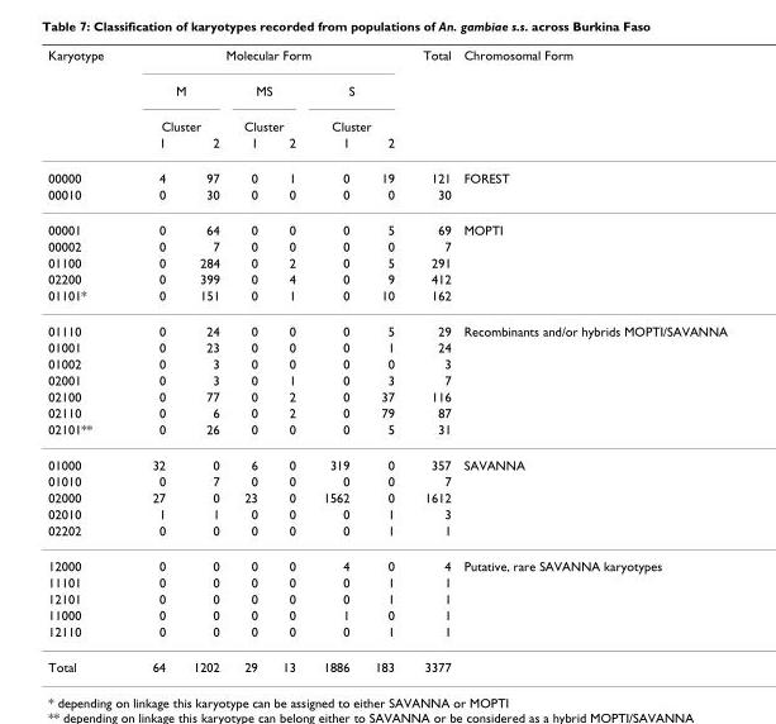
<table><thead><tr><td rowspan="4">Karyotype</td><td colspan="6">Molecular Form</td><td rowspan="4">Total</td><td rowspan="4">Chromosomal Form</td></tr><tr><td rowspan="2" colspan="2">M Cluster</td><td rowspan="2" colspan="2">MS Cluster</td><td rowspan="2" colspan="2">S Cluster</td></tr><tr></tr><tr><td>1</td><td>2</td><td>1</td><td>2</td><td>1</td><td>2</td></tr></thead><tbody><tr><td>00000</td><td>4</td><td>97</td><td>0</td><td>1</td><td>0</td><td>19</td><td>121</td><td>FOREST</td></tr><tr><td>00010</td><td>0</td><td>30</td><td>0</td><td>0</td><td>0</td><td>0</td><td>30</td><td></td></tr><tr><td>00001</td><td>0</td><td>64</td><td>0</td><td>0</td><td>0</td><td>5</td><td>69</td><td>MOPTI</td></tr><tr><td>00002</td><td>0</td><td>7</td><td>0</td><td>0</td><td>0</td><td>0</td><td>7</td><td></td></tr><tr><td>01100</td><td>0</td><td>284</td><td>0</td><td>2</td><td>0</td><td>5</td><td>291</td><td></td></tr><tr><td>02200</td><td>0</td><td>399</td><td>0</td><td>4</td><td>0</td><td>9</td><td>412</td><td></td></tr><tr><td>01101*</td><td>0</td><td>151</td><td>0</td><td>1</td><td>0</td><td>10</td><td>162</td><td></td></tr><tr><td>01110</td><td>0</td><td>24</td><td>0</td><td>0</td><td>0</td><td>5</td><td>29</td><td>Recombinants and/or hybrids MOPTI/SAVANNA</td></tr><tr><td>01001</td><td>0</td><td>23</td><td>0</td><td>0</td><td>0</td><td>1</td><td>24</td><td></td></tr><tr><td>01002</td><td>0</td><td>3</td><td>0</td><td>0</td><td>0</td><td>0</td><td>3</td><td></td></tr><tr><td>02001</td><td>0</td><td>3</td><td>0</td><td>1</td><td>0</td><td>3</td><td>7</td><td></td></tr><tr><td>02100</td><td>0</td><td>77</td><td>0</td><td>2</td><td>0</td><td>37</td><td>116</td><td></td></tr><tr><td>02110</td><td>0</td><td>6</td><td>0</td><td>2</td><td>0</td><td>79</td><td>87</td><td></td></tr><tr><td>02101**</td><td>0</td><td>26</td><td>0</td><td>0</td><td>0</td><td>5</td><td>31</td><td></td></tr><tr><td>01000</td><td>32</td><td>0</td><td>6</td><td>0</td><td>319</td><td>0</td><td>357</td><td>SAVANNA</td></tr><tr><td>01010</td><td>0</td><td>7</td><td>0</td><td>0</td><td>0</td><td>0</td><td>7</td><td></td></tr><tr><td>02000</td><td>27</td><td>0</td><td>23</td><td>0</td><td>1562</td><td>0</td><td>1612</td><td></td></tr><tr><td>02010</td><td>1</td><td>1</td><td>0</td><td>0</td><td>0</td><td>1</td><td>3</td><td></td></tr><tr><td>02202</td><td>0</td><td>0</td><td>0</td><td>0</td><td>0</td><td>1</td><td>1</td><td></td></tr><tr><td>12000</td><td>0</td><td>0</td><td>0</td><td>0</td><td>4</td><td>0</td><td>4</td><td>Putative, rare SAVANNA karyotypes</td></tr><tr><td>11101</td><td>0</td><td>0</td><td>0</td><td>0</td><td>0</td><td>1</td><td>1</td><td></td></tr><tr><td>12101</td><td>0</td><td>0</td><td>0</td><td>0</td><td>0</td><td>1</td><td>1</td><td></td></tr><tr><td>11000</td><td>0</td><td>0</td><td>0</td><td>0</td><td>1</td><td>0</td><td>1</td><td></td></tr><tr><td>12110</td><td>0</td><td>0</td><td>0</td><td>0</td><td>0</td><td>1</td><td>1</td><td></td></tr><tr><td>Total</td><td>64</td><td>1202</td><td>29</td><td>13</td><td>1886</td><td>183</td><td>3377</td><td></td></tr></tbody></table>